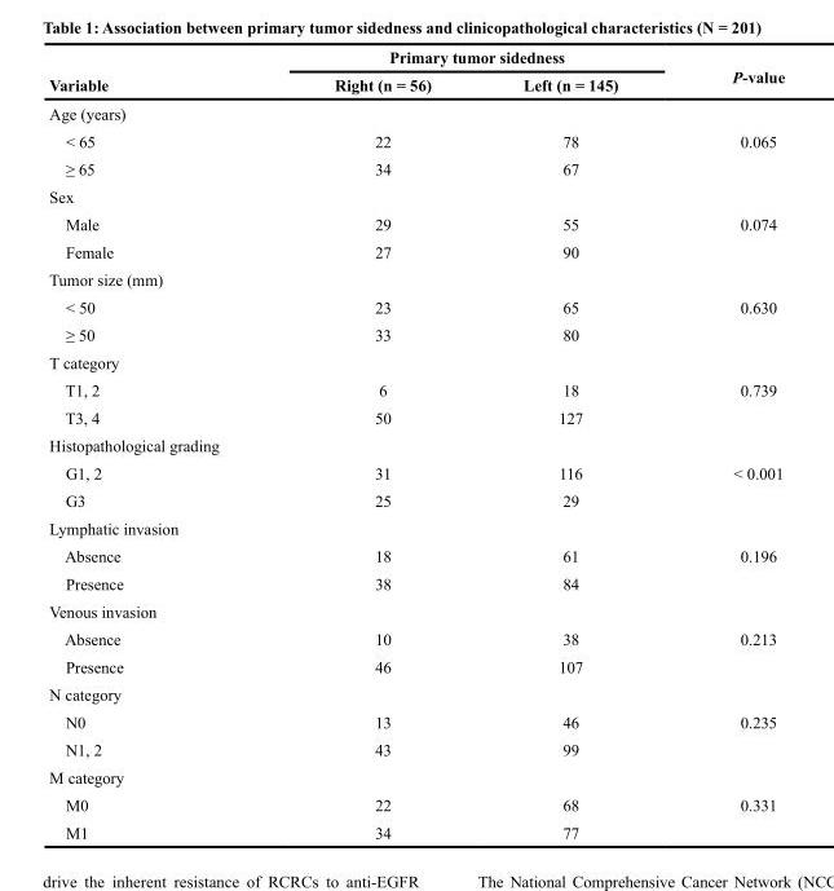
<table><thead><tr><td rowspan="2">Variable</td><td colspan="2">Primary tumor sidedness</td><td rowspan="2">P-value</td></tr><tr><td>Right (n = 56)</td><td>Left (n = 145)</td></tr></thead><tbody><tr><td colspan="4">Age (years)</td></tr><tr><td>&lt; 65</td><td>22</td><td>78</td><td>0.065</td></tr><tr><td>≥ 65</td><td>34</td><td>67</td><td></td></tr><tr><td colspan="4">Sex</td></tr><tr><td>Male</td><td>29</td><td>55</td><td>0.074</td></tr><tr><td>Female</td><td>27</td><td>90</td><td></td></tr><tr><td colspan="4">Tumor size (mm)</td></tr><tr><td>&lt; 50</td><td>23</td><td>65</td><td>0.630</td></tr><tr><td>≥ 50</td><td>33</td><td>80</td><td></td></tr><tr><td colspan="4">T category</td></tr><tr><td>T1, 2</td><td>6</td><td>18</td><td>0.739</td></tr><tr><td>T3, 4</td><td>50</td><td>127</td><td></td></tr><tr><td colspan="4">Histopathological grading</td></tr><tr><td>G1, 2</td><td>31</td><td>116</td><td>&lt; 0.001</td></tr><tr><td>G3</td><td>25</td><td>29</td><td></td></tr><tr><td colspan="4">Lymphatic invasion</td></tr><tr><td>Absence</td><td>18</td><td>61</td><td>0.196</td></tr><tr><td>Presence</td><td>38</td><td>84</td><td></td></tr><tr><td colspan="4">Venous invasion</td></tr><tr><td>Absence</td><td>10</td><td>38</td><td>0.213</td></tr><tr><td>Presence</td><td>46</td><td>107</td><td></td></tr><tr><td colspan="4">N category</td></tr><tr><td>N0</td><td>13</td><td>46</td><td>0.235</td></tr><tr><td>N1, 2</td><td>43</td><td>99</td><td></td></tr><tr><td colspan="4">M category</td></tr><tr><td>M0</td><td>22</td><td>68</td><td>0.331</td></tr><tr><td>M1</td><td>34</td><td>77</td><td></td></tr></tbody></table>